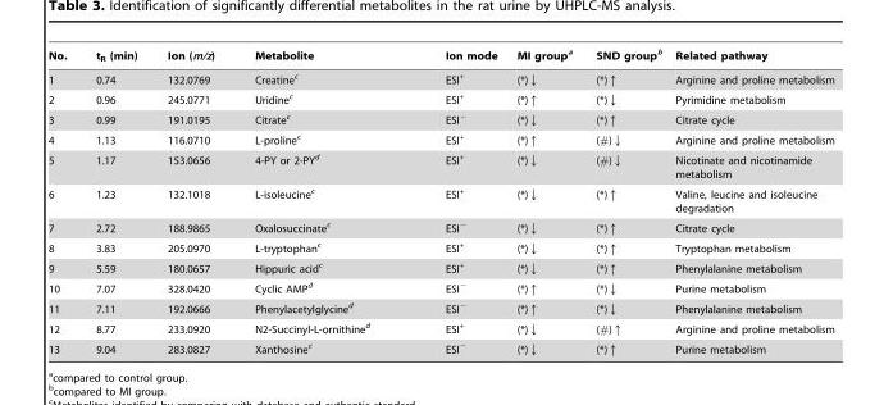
<table><thead><tr><td>No.</td><td>t<sub>R</sub> (min)</td><td>Ion (m/z)</td><td>Metabolite</td><td>Ion mode</td><td>MI group<sup>a</sup></td><td>SND group<sup>b</sup></td><td>Related pathway</td></tr></thead><tbody><tr><td>1</td><td>0.74</td><td>132.0769</td><td>Creatine<sup>c</sup></td><td>ESI<sup>+</sup></td><td>(*)↓</td><td>(*)↑</td><td>Arginine and proline metabolism</td></tr><tr><td>2</td><td>0.96</td><td>245.0771</td><td>Uridine<sup>c</sup></td><td>ESI<sup>+</sup></td><td>(*)↑</td><td>(*)↓</td><td>Pyrimidine metabolism</td></tr><tr><td>3</td><td>0.99</td><td>191.0195</td><td>Citrate<sup>c</sup></td><td>ESI<sup>−</sup></td><td>(*)↓</td><td>(*)↑</td><td>Citrate cycle</td></tr><tr><td>4</td><td>1.13</td><td>116.0710</td><td>L-proline<sup>c</sup></td><td>ESI<sup>+</sup></td><td>(*)↑</td><td>(#)↓</td><td>Arginine and proline metabolism</td></tr><tr><td>5</td><td>1.17</td><td>153.0656</td><td>4-PY or 2-PY<sup>d</sup></td><td>ESI<sup>+</sup></td><td>(*)↓</td><td>(#)↓</td><td>Nicotinate and nicotinamide metabolism</td></tr><tr><td>6</td><td>1.23</td><td>132.1018</td><td>L-isoleucine<sup>c</sup></td><td>ESI<sup>+</sup></td><td>(*)↓</td><td>(*)↑</td><td>Valine, leucine and isoleucine degradation</td></tr><tr><td>7</td><td>2.72</td><td>188.9865</td><td>Oxalosuccinate<sup>c</sup></td><td>ESI<sup>−</sup></td><td>(*)↓</td><td>(*)↑</td><td>Citrate cycle</td></tr><tr><td>8</td><td>3.83</td><td>205.0970</td><td>L-tryptophan<sup>c</sup></td><td>ESI<sup>+</sup></td><td>(*)↓</td><td>(*)↑</td><td>Tryptophan metabolism</td></tr><tr><td>9</td><td>5.59</td><td>180.0657</td><td>Hippuric acid<sup>c</sup></td><td>ESI<sup>+</sup></td><td>(*)↓</td><td>(*)↑</td><td>Phenylalanine metabolism</td></tr><tr><td>10</td><td>7.07</td><td>328.0420</td><td>Cyclic AMP<sup>d</sup></td><td>ESI<sup>−</sup></td><td>(*)↑</td><td>(*)↓</td><td>Purine metabolism</td></tr><tr><td>11</td><td>7.11</td><td>192.0666</td><td>Phenylacetylglycine<sup>d</sup></td><td>ESI<sup>−</sup></td><td>(*)↑</td><td>(*)↓</td><td>Phenylalanine metabolism</td></tr><tr><td>12</td><td>8.77</td><td>233.0920</td><td>N2-Succinyl-L-ornithine<sup>d</sup></td><td>ESI<sup>+</sup></td><td>(*)↓</td><td>(#)↑</td><td>Arginine and proline metabolism</td></tr><tr><td>13</td><td>9.04</td><td>283.0827</td><td>Xanthosine<sup>c</sup></td><td>ESI<sup>−</sup></td><td>(*)↓</td><td>(*)↑</td><td>Purine metabolism</td></tr></tbody></table>